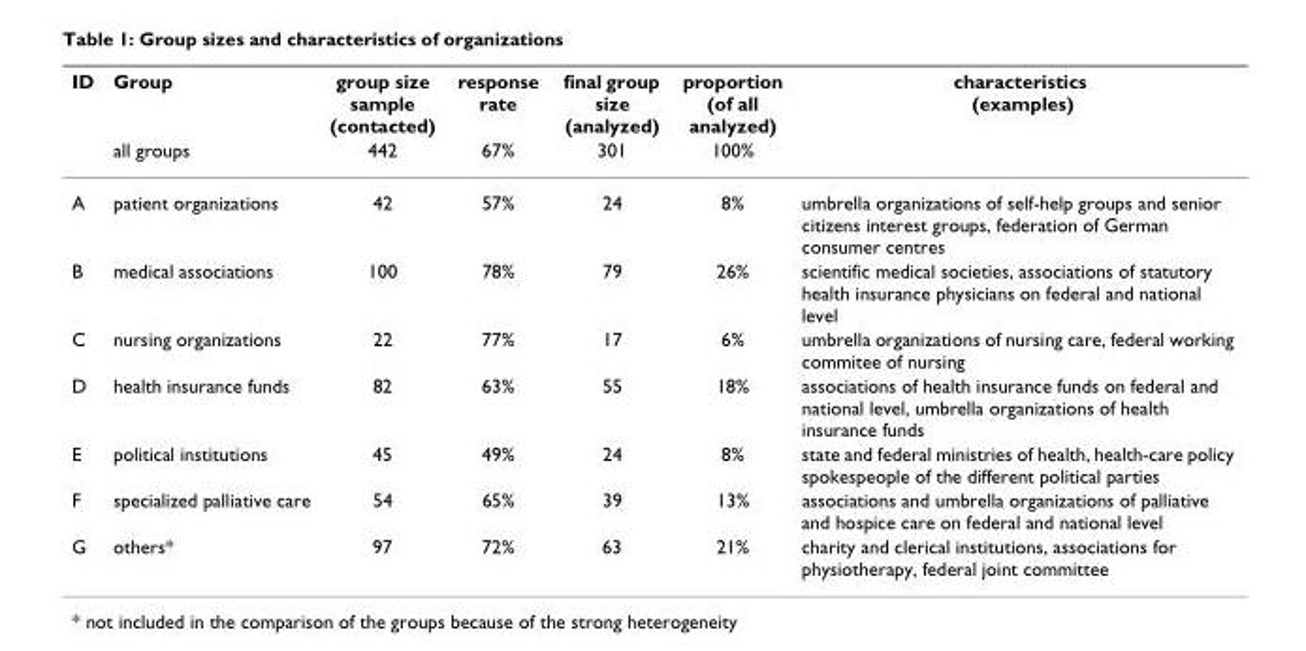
<table><thead><tr><td rowspan="2">ID</td><td rowspan="2">Group all groups</td><td rowspan="2">group size sample (contacted) 442</td><td rowspan="2">response rate 67%</td><td rowspan="2">final group size (analyzed) 301</td><td rowspan="2">proportion (of all analyzed) 100%</td><td rowspan="2">characteristics (examples)</td></tr><tr></tr></thead><tbody><tr><td>A</td><td>patient organizations</td><td>42</td><td>57%</td><td>24</td><td>8%</td><td>umbrella organizations of self-help groups and senior citizens interest groups, federation of German consumer centres</td></tr><tr><td>B</td><td>medical associations</td><td>100</td><td>78%</td><td>79</td><td>26%</td><td>scientific medical societies, associations of statutory health insurance physicians on federal and national level</td></tr><tr><td>C</td><td>nursing organizations</td><td>22</td><td>77%</td><td>17</td><td>6%</td><td>umbrella organizations of nursing care, federal working commitee of nursing</td></tr><tr><td>D</td><td>health insurance funds</td><td>82</td><td>63%</td><td>55</td><td>18%</td><td>associations of health insurance funds on federal and national level, umbrella organizations of health insurance funds</td></tr><tr><td>E</td><td>political institutions</td><td>45</td><td>49%</td><td>24</td><td>8%</td><td>state and federal ministries of health, health-care policy spokespeople of the different political parties</td></tr><tr><td>F</td><td>specialized palliative care</td><td>54</td><td>65%</td><td>39</td><td>13%</td><td>associations and umbrella organizations of palliative and hospice care on federal and national level</td></tr><tr><td>G</td><td>others*</td><td>97</td><td>72%</td><td>63</td><td>21%</td><td>charity and clerical institutions, associations for physiotherapy, federal joint committee</td></tr></tbody></table>